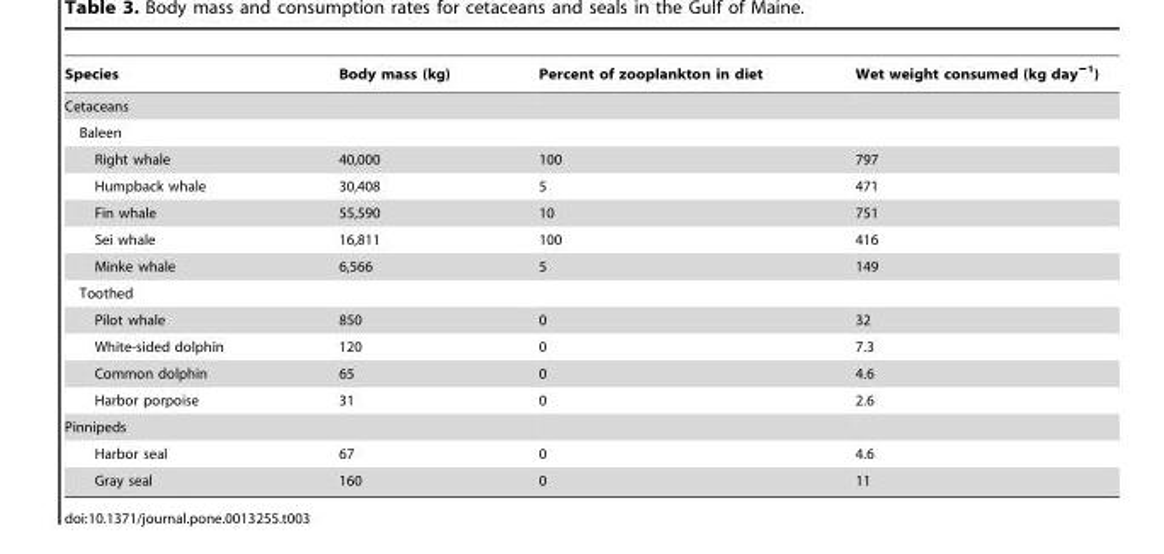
<table><thead><tr><td>Species</td><td>Body mass (kg)</td><td>Percent of zooplankton in diet</td><td>Wet weight consumed (kg day<sup>−1</sup>)</td></tr></thead><tbody><tr><td colspan="4">Cetaceans</td></tr><tr><td colspan="4">Baleen</td></tr><tr><td>Right whale</td><td>40,000</td><td>100</td><td>797</td></tr><tr><td>Humpback whale</td><td>30,408</td><td>5</td><td>471</td></tr><tr><td>Fin whale</td><td>55,590</td><td>10</td><td>751</td></tr><tr><td>Sei whale</td><td>16,811</td><td>100</td><td>416</td></tr><tr><td>Minke whale</td><td>6,566</td><td>5</td><td>149</td></tr><tr><td colspan="4">Toothed</td></tr><tr><td>Pilot whale</td><td>850</td><td>0</td><td>32</td></tr><tr><td>White-sided dolphin</td><td>120</td><td>0</td><td>7.3</td></tr><tr><td>Common dolphin</td><td>65</td><td>0</td><td>4.6</td></tr><tr><td>Harbor porpoise</td><td>31</td><td>0</td><td>2.6</td></tr><tr><td colspan="4">Pinnipeds</td></tr><tr><td>Harbor seal</td><td>67</td><td>0</td><td>4.6</td></tr><tr><td>Gray seal</td><td>160</td><td>0</td><td>11</td></tr></tbody></table>